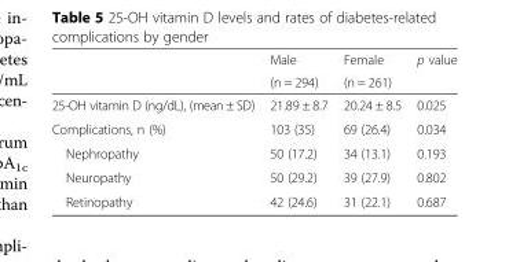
<table><thead><tr><td rowspan="2"></td><td rowspan="2">Male (n = 294)</td><td rowspan="2">Female (n = 261)</td><td rowspan="2">p value</td></tr><tr></tr></thead><tbody><tr><td>25-OH vitamin D (ng/dL), (mean ± SD)</td><td>21.89 ± 8.7</td><td>20.24 ± 8.5</td><td>0.025</td></tr><tr><td>Complications, n (%)</td><td>103 (35)</td><td>69 (26.4)</td><td>0.034</td></tr><tr><td>Nephropathy</td><td>50 (17.2)</td><td>34 (13.1)</td><td>0.193</td></tr><tr><td>Neuropathy</td><td>50 (29.2)</td><td>39 (27.9)</td><td>0.802</td></tr><tr><td>Retinopathy</td><td>42 (24.6)</td><td>31 (22.1)</td><td>0.687</td></tr></tbody></table>